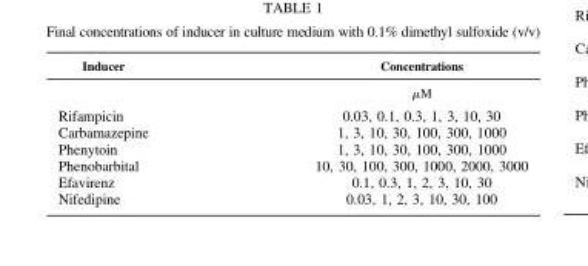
<table><thead><tr><td>Inducer</td><td>Concentrations</td></tr></thead><tbody><tr><td></td><td>µM</td></tr><tr><td>Rifampicin</td><td>0.03, 0.1, 0.3, 1, 3, 10, 30</td></tr><tr><td>Carbamazepine</td><td>1, 3, 10, 30, 100, 300, 1000</td></tr><tr><td>Phenytoin</td><td>1, 3, 10, 30, 100, 300, 1000</td></tr><tr><td>Phenobarbital</td><td>10, 30, 100, 300, 1000, 2000, 3000</td></tr><tr><td>Efavirenz</td><td>0.1, 0.3, 1, 2, 3, 10, 30</td></tr><tr><td>Nifedipine</td><td>0.03, 1, 2, 3, 10, 30, 100</td></tr></tbody></table>